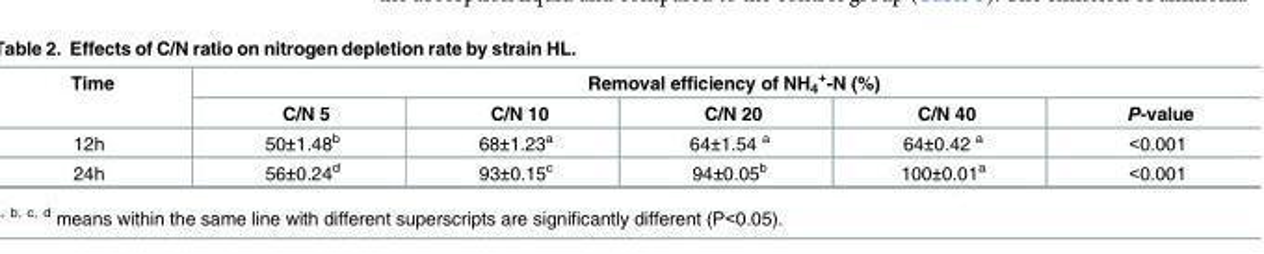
<table><thead><tr><td rowspan="2">Time</td><td colspan="5">Removal efficiency of NH<sub>4</sub> <sup>+</sup>-N (%)</td></tr><tr><td>C/N 5</td><td>C/N 10</td><td>C/N 20</td><td>C/N 40</td><td>P-value</td></tr></thead><tbody><tr><td>12h</td><td>50±1.48<sup>b</sup></td><td>68±1.23<sup>a</sup></td><td>64±1.54 <sup>a</sup></td><td>64±0.42 <sup>a</sup></td><td>&lt;0.001</td></tr><tr><td>24h</td><td>56±0.24<sup>d</sup></td><td>93±0.15<sup>c</sup></td><td>94±0.05<sup>b</sup></td><td>100±0.01<sup>a</sup></td><td>&lt;0.001</td></tr></tbody></table>